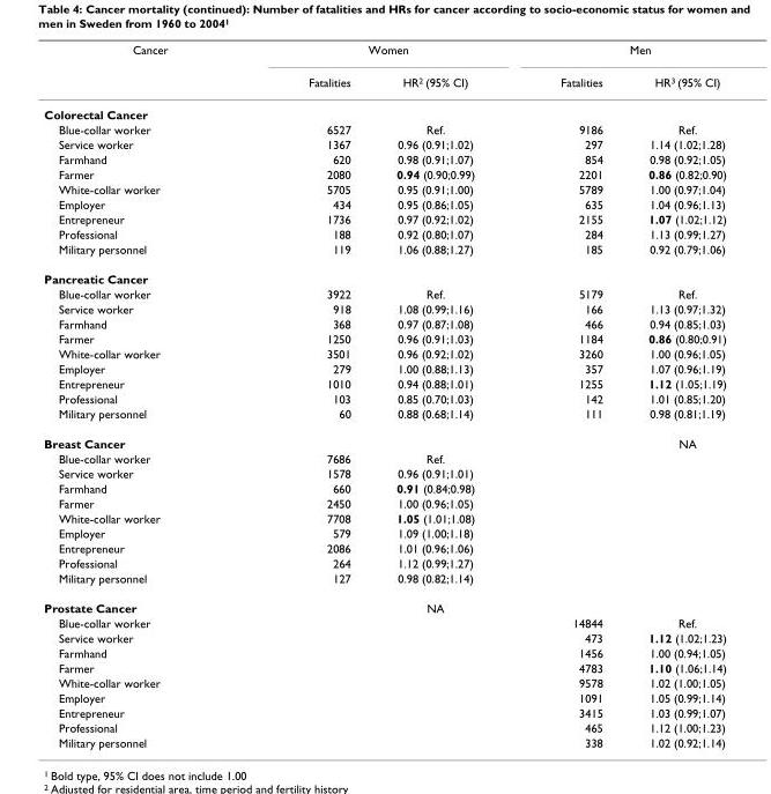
<table><thead><tr><td rowspan="2">Cancer</td><td colspan="2">Women</td><td colspan="2">Men</td></tr><tr><td>Fatalities</td><td>HR<sup>2</sup> (95% CI)</td><td>Fatalities</td><td>HR<sup>3</sup> (95% CI)</td></tr></thead><tbody><tr><td colspan="5">Colorectal Cancer</td></tr><tr><td>Blue-collar worker</td><td>6527</td><td>Ref.</td><td>9186</td><td>Ref.</td></tr><tr><td>Service worker</td><td>1367</td><td>0.96 (0.91;1.02)</td><td>297</td><td>1.14 (1.02;1.28)</td></tr><tr><td>Farmhand</td><td>620</td><td>0.98 (0.91;1.07)</td><td>854</td><td>0.98 (0.92;1.05)</td></tr><tr><td>Farmer</td><td>2080</td><td>0.94 (0.90;0.99)</td><td>2201</td><td>0.86 (0.82;0.90)</td></tr><tr><td>White-collar worker</td><td>5705</td><td>0.95 (0.91;1.00)</td><td>5789</td><td>1.00 (0.97;1.04)</td></tr><tr><td>Employer</td><td>434</td><td>0.95 (0.86;1.05)</td><td>635</td><td>1.04 (0.96;1.13)</td></tr><tr><td>Entrepreneur</td><td>1736</td><td>0.97 (0.92;1.02)</td><td>2155</td><td>1.07 (1.02;1.12)</td></tr><tr><td>Professional</td><td>188</td><td>0.92 (0.80;1.07)</td><td>284</td><td>1.13 (0.99;1.27)</td></tr><tr><td>Military personnel</td><td>119</td><td>1.06 (0.88;1.27)</td><td>185</td><td>0.92 (0.79;1.06)</td></tr><tr><td colspan="5">Pancreatic Cancer</td></tr><tr><td>Blue-collar worker</td><td>3922</td><td>Ref.</td><td>5179</td><td>Ref.</td></tr><tr><td>Service worker</td><td>918</td><td>1.08 (0.99;1.16)</td><td>166</td><td>1.13 (0.97;1.32)</td></tr><tr><td>Farmhand</td><td>368</td><td>0.97 (0.87;1.08)</td><td>466</td><td>0.94 (0.85;1.03)</td></tr><tr><td>Farmer</td><td>1250</td><td>0.96 (0.91;1.03)</td><td>1184</td><td>0.86 (0.80;0.91)</td></tr><tr><td>White-collar worker</td><td>3501</td><td>0.96 (0.92;1.02)</td><td>3260</td><td>1.00 (0.96;1.05)</td></tr><tr><td>Employer</td><td>279</td><td>1.00 (0.88;1.13)</td><td>357</td><td>1.07 (0.96;1.19)</td></tr><tr><td>Entrepreneur</td><td>1010</td><td>0.94 (0.88;1.01)</td><td>1255</td><td>1.12 (1.05;1.19)</td></tr><tr><td>Professional</td><td>103</td><td>0.85 (0.70;1.03)</td><td>142</td><td>1.01 (0.85;1.20)</td></tr><tr><td>Military personnel</td><td>60</td><td>0.88 (0.68;1.14)</td><td>111</td><td>0.98 (0.81;1.19)</td></tr><tr><td>Breast Cancer</td><td></td><td></td><td></td><td>NA</td></tr><tr><td>Blue-collar worker</td><td>7686</td><td>Ref.</td><td></td><td></td></tr><tr><td>Service worker</td><td>1578</td><td>0.96 (0.91;1.01)</td><td></td><td></td></tr><tr><td>Farmhand</td><td>660</td><td>0.91 (0.84;0.98)</td><td></td><td></td></tr><tr><td>Farmer</td><td>2450</td><td>1.00 (0.96;1.05)</td><td></td><td></td></tr><tr><td>White-collar worker</td><td>7708</td><td>1.05 (1.01;1.08)</td><td></td><td></td></tr><tr><td>Employer</td><td>579</td><td>1.09 (1.00;1.18)</td><td></td><td></td></tr><tr><td>Entrepreneur</td><td>2086</td><td>1.01 (0.96;1.06)</td><td></td><td></td></tr><tr><td>Professional</td><td>264</td><td>1.12 (0.99;1.27)</td><td></td><td></td></tr><tr><td>Military personnel</td><td>127</td><td>0.98 (0.82;1.14)</td><td></td><td></td></tr><tr><td>Prostate Cancer</td><td></td><td>NA</td><td></td><td></td></tr><tr><td>Blue-collar worker</td><td></td><td></td><td>14844</td><td>Ref.</td></tr><tr><td>Service worker</td><td></td><td></td><td>473</td><td>1.12 (1.02;1.23)</td></tr><tr><td>Farmhand</td><td></td><td></td><td>1456</td><td>1.00 (0.94;1.05)</td></tr><tr><td>Farmer</td><td></td><td></td><td>4783</td><td>1.10 (1.06;1.14)</td></tr><tr><td>White-collar worker</td><td></td><td></td><td>9578</td><td>1.02 (1.00;1.05)</td></tr><tr><td>Employer</td><td></td><td></td><td>1091</td><td>1.05 (0.99;1.14)</td></tr><tr><td>Entrepreneur</td><td></td><td></td><td>3415</td><td>1.03 (0.99;1.07)</td></tr><tr><td>Professional</td><td></td><td></td><td>465</td><td>1.12 (1.00;1.23)</td></tr><tr><td>Military personnel</td><td></td><td></td><td>338</td><td>1.02 (0.92;1.14)</td></tr></tbody></table>